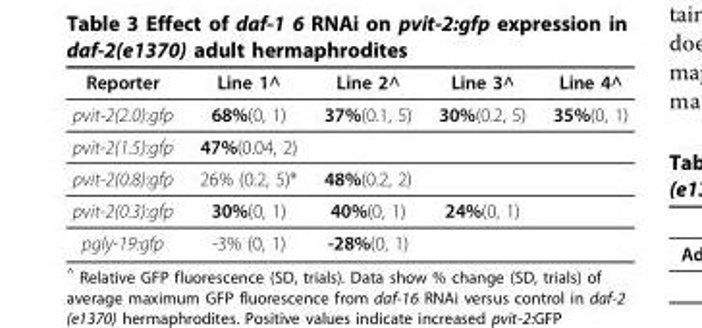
<table><thead><tr><td>Reporter</td><td>Line 1^</td><td>Line 2^</td><td>Line 3^</td><td>Line 4^</td></tr></thead><tbody><tr><td>pvit-2(2.0):gfp</td><td>68%(0, 1)</td><td>37%(0.1, 5)</td><td>30%(0.2, 5)</td><td>35%(0, 1)</td></tr><tr><td>pvit-2(1.5):gfp</td><td>47%(0.04, 2)</td><td></td><td></td><td></td></tr><tr><td>pvit-2(0.8):gfp</td><td>26% (0.2, 5)*</td><td>48%(0.2, 2)</td><td></td><td></td></tr><tr><td>pvit-2(0.3):gfp</td><td>30%(0, 1)</td><td>40%(0, 1)</td><td>24%(0, 1)</td><td></td></tr><tr><td>pgly-19:gfp</td><td>-3% (0, 1)</td><td>-28%(0, 1)</td><td></td><td></td></tr></tbody></table>